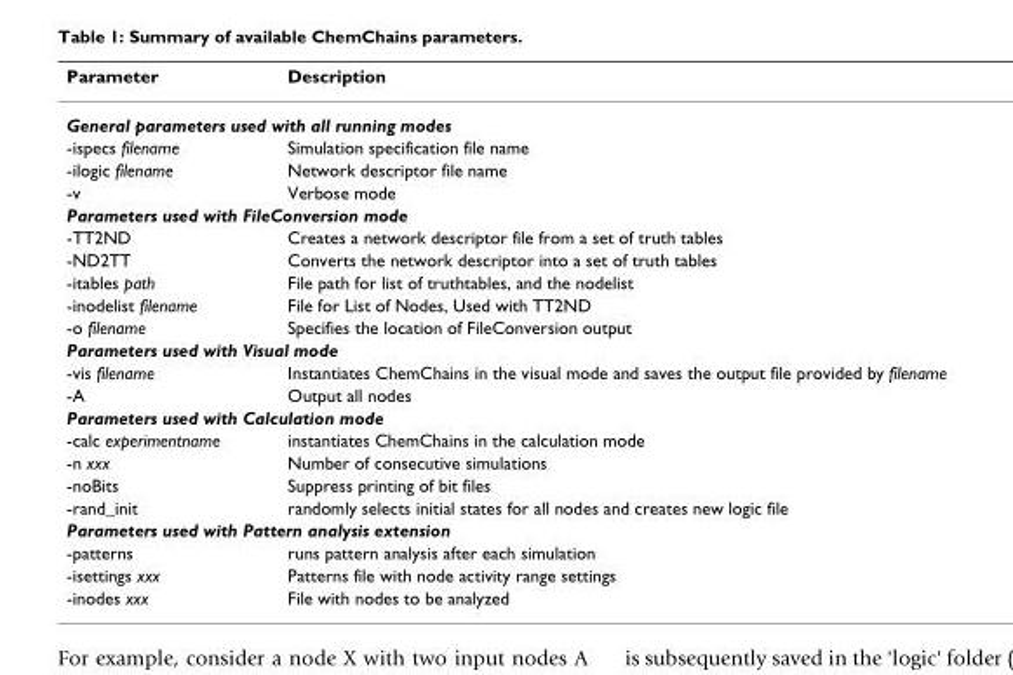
<table><thead><tr><td>Parameter</td><td>Description</td></tr></thead><tbody><tr><td colspan="2">General parameters used with all running modes</td></tr><tr><td>-ispecs filename</td><td>Simulation specification file name</td></tr><tr><td>-ilogic filename</td><td>Network descriptor file name</td></tr><tr><td>-v</td><td>Verbose mode</td></tr><tr><td colspan="2">Parameters used with FileConversion mode</td></tr><tr><td>-TT2ND</td><td>Creates a network descriptor file from a set of truth tables</td></tr><tr><td>-ND2TT</td><td>Converts the network descriptor into a set of truth tables</td></tr><tr><td>-itables path</td><td>File path for list of truthtables, and the nodelist</td></tr><tr><td>-inodelist filename</td><td>File for List of Nodes, Used with TT2ND</td></tr><tr><td>-o filename</td><td>Specifies the location of FileConversion output</td></tr><tr><td colspan="2">Parameters used with Visual mode</td></tr><tr><td>-vis filename</td><td>Instantiates ChemChains in the visual mode and saves the output file provided by filename</td></tr><tr><td>-A</td><td>Output all nodes</td></tr><tr><td colspan="2">Parameters used with Calculation mode</td></tr><tr><td>-calc experimentname</td><td>instantiates ChemChains in the calculation mode</td></tr><tr><td>-n xxx</td><td>Number of consecutive simulations</td></tr><tr><td>-noBits</td><td>Suppress printing of bit files</td></tr><tr><td>-rand_init</td><td>randomly selects initial states for all nodes and creates new logic file</td></tr><tr><td colspan="2">Parameters used with Pattern analysis extension</td></tr><tr><td>-patterns</td><td>runs pattern analysis after each simulation</td></tr><tr><td>-isettings xxx</td><td>Patterns file with node activity range settings</td></tr><tr><td>-inodes xxx</td><td>File with nodes to be analyzed</td></tr></tbody></table>